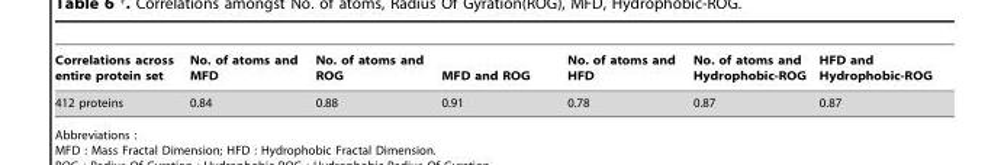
<table><thead><tr><td>Correlations across entire protein set</td><td>No. of atoms and MFD</td><td>No. of atoms and ROG</td><td>MFD and ROG</td><td>No. of atoms and HFD</td><td>No. of atoms and Hydrophobic-ROG</td><td>HFD and Hydrophobic-ROG</td></tr></thead><tbody><tr><td>412 proteins</td><td>0.84</td><td>0.88</td><td>0.91</td><td>0.78</td><td>0.87</td><td>0.87</td></tr></tbody></table>